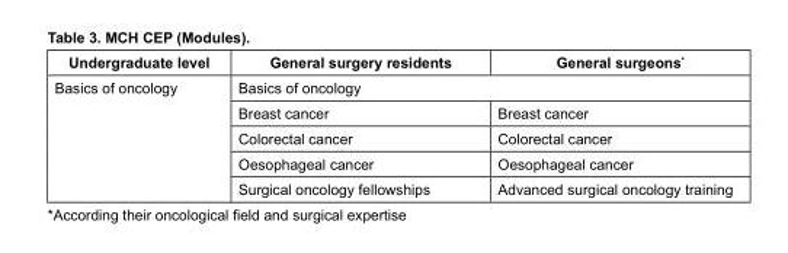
<table><thead><tr><td>Undergraduate level</td><td>General surgery residents</td><td>General surgeons*</td></tr></thead><tbody><tr><td rowspan="5">Basics of oncology</td><td colspan="2">Basics of oncology</td></tr><tr><td>Breast cancer</td><td>Breast cancer</td></tr><tr><td>Colorectal cancer</td><td>Colorectal cancer</td></tr><tr><td>Oesophageal cancer</td><td>Oesophageal cancer</td></tr><tr><td>Surgical oncology fellowships</td><td>Advanced surgical oncology training</td></tr></tbody></table>